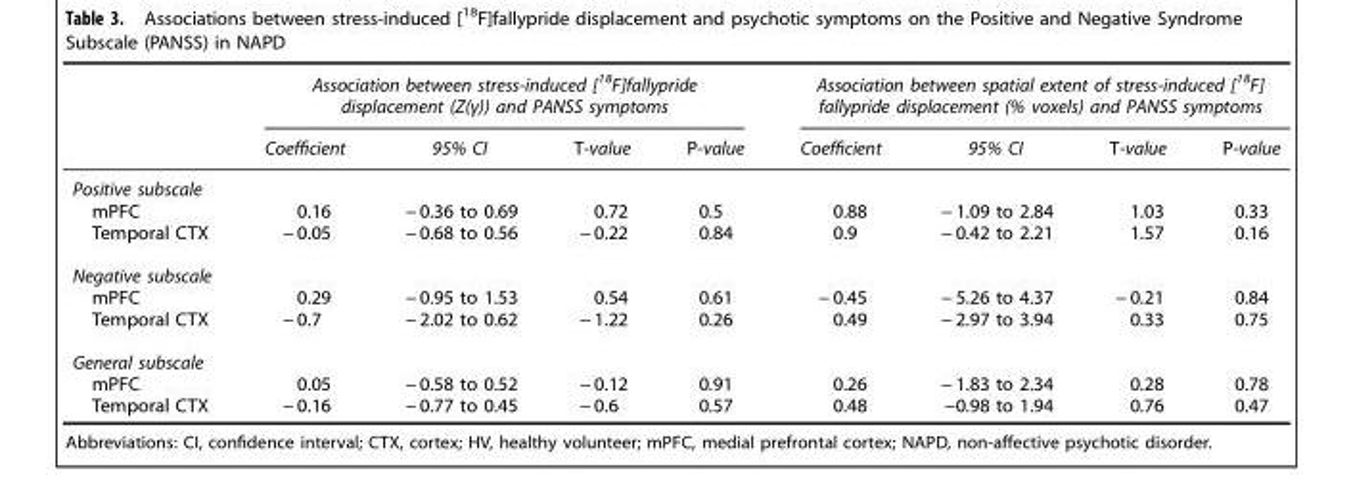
<table><thead><tr><td rowspan="2"></td><td colspan="4">Association between stress-induced [<sup>18</sup>F]fallypride displacement (Z(γ)) and PANSS symptoms</td><td colspan="4">Association between spatial extent of stress-induced [<sup>18</sup>F] fallypride displacement (% voxels) and PANSS symptoms</td></tr><tr><td>Coefficient</td><td>95% CI</td><td>T-value</td><td>P-value</td><td>Coefficient</td><td>95% CI</td><td>T-value</td><td>P-value</td></tr></thead><tbody><tr><td colspan="9">Positive subscale</td></tr><tr><td>mPFC</td><td>0.16</td><td>− 0.36 to 0.69</td><td>0.72</td><td>0.5</td><td>0.88</td><td>− 1.09 to 2.84</td><td>1.03</td><td>0.33</td></tr><tr><td>Temporal CTX</td><td>− 0.05</td><td>− 0.68 to 0.56</td><td>− 0.22</td><td>0.84</td><td>0.9</td><td>− 0.42 to 2.21</td><td>1.57</td><td>0.16</td></tr><tr><td colspan="9">Negative subscale</td></tr><tr><td>mPFC</td><td>0.29</td><td>− 0.95 to 1.53</td><td>0.54</td><td>0.61</td><td>− 0.45</td><td>− 5.26 to 4.37</td><td>− 0.21</td><td>0.84</td></tr><tr><td>Temporal CTX</td><td>− 0.7</td><td>− 2.02 to 0.62</td><td>− 1.22</td><td>0.26</td><td>0.49</td><td>− 2.97 to 3.94</td><td>0.33</td><td>0.75</td></tr><tr><td colspan="9">General subscale</td></tr><tr><td>mPFC</td><td>0.05</td><td>− 0.58 to 0.52</td><td>− 0.12</td><td>0.91</td><td>0.26</td><td>− 1.83 to 2.34</td><td>0.28</td><td>0.78</td></tr><tr><td>Temporal CTX</td><td>− 0.16</td><td>− 0.77 to 0.45</td><td>− 0.6</td><td>0.57</td><td>0.48</td><td>−0.98 to 1.94</td><td>0.76</td><td>0.47</td></tr></tbody></table>